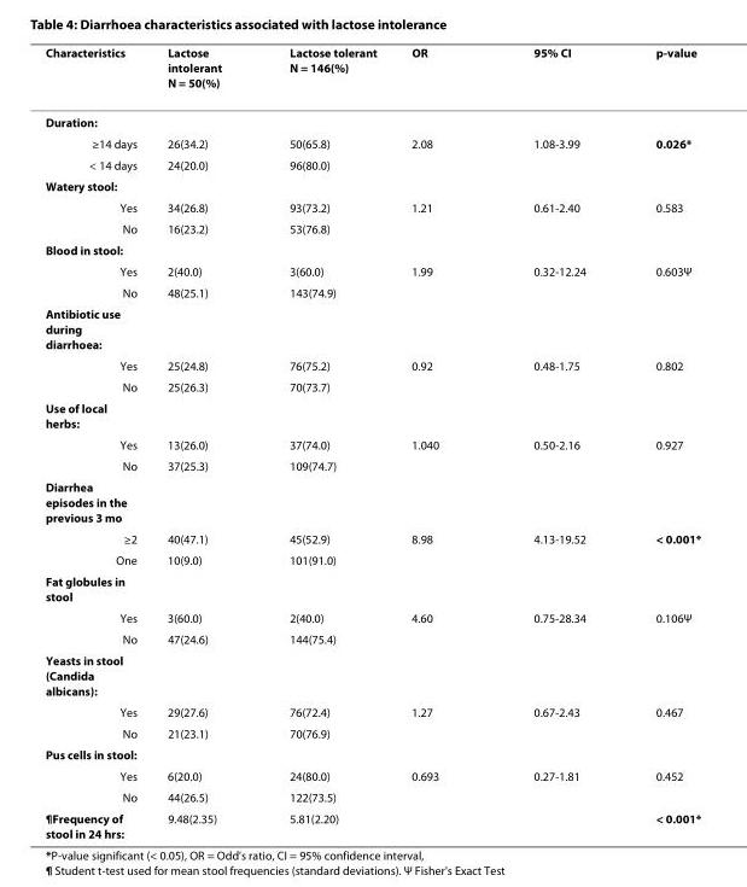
<table><thead><tr><td>Characteristics</td><td>Lactose intolerant N = 50(%)</td><td>Lactose tolerant N = 146(%)</td><td>OR</td><td>95% CI</td><td>p-value</td></tr></thead><tbody><tr><td colspan="6">Duration:</td></tr><tr><td>≥14 days</td><td>26(34.2)</td><td>50(65.8)</td><td>2.08</td><td>1.08-3.99</td><td>0.026*</td></tr><tr><td>&lt; 14 days</td><td>24(20.0)</td><td>96(80.0)</td><td></td><td></td><td></td></tr><tr><td colspan="6">Watery stool:</td></tr><tr><td>Yes</td><td>34(26.8)</td><td>93(73.2)</td><td>1.21</td><td>0.61-2.40</td><td>0.583</td></tr><tr><td>No</td><td>16(23.2)</td><td>53(76.8)</td><td></td><td></td><td></td></tr><tr><td colspan="6">Blood in stool:</td></tr><tr><td>Yes</td><td>2(40.0)</td><td>3(60.0)</td><td>1.99</td><td>0.32-12.24</td><td>0.603Ψ</td></tr><tr><td>No</td><td>48(25.1)</td><td>143(74.9)</td><td></td><td></td><td></td></tr><tr><td colspan="6">Antibiotic use during diarrhoea:</td></tr><tr><td>Yes</td><td>25(24.8)</td><td>76(75.2)</td><td>0.92</td><td>0.48-1.75</td><td>0.802</td></tr><tr><td>No</td><td>25(26.3)</td><td>70(73.7)</td><td></td><td></td><td></td></tr><tr><td colspan="6">Use of local herbs:</td></tr><tr><td>Yes</td><td>13(26.0)</td><td>37(74.0)</td><td>1.040</td><td>0.50-2.16</td><td>0.927</td></tr><tr><td>No</td><td>37(25.3)</td><td>109(74.7)</td><td></td><td></td><td></td></tr><tr><td colspan="6">Diarrhea episodes in the previous 3 mo</td></tr><tr><td>≥2</td><td>40(47.1)</td><td>45(52.9)</td><td>8.98</td><td>4.13-19.52</td><td>&lt; 0.001*</td></tr><tr><td>One</td><td>10(9.0)</td><td>101(91.0)</td><td></td><td></td><td></td></tr><tr><td colspan="6">Fat globules in stool</td></tr><tr><td>Yes</td><td>3(60.0)</td><td>2(40.0)</td><td>4.60</td><td>0.75-28.34</td><td>0.106Ψ</td></tr><tr><td>No</td><td>47(24.6)</td><td>144(75.4)</td><td></td><td></td><td></td></tr><tr><td colspan="6">Yeasts in stool (Candida albicans):</td></tr><tr><td>Yes</td><td>29(27.6)</td><td>76(72.4)</td><td>1.27</td><td>0.67-2.43</td><td>0.467</td></tr><tr><td>No</td><td>21(23.1)</td><td>70(76.9)</td><td></td><td></td><td></td></tr><tr><td colspan="6">Pus cells in stool:</td></tr><tr><td>Yes</td><td>6(20.0)</td><td>24(80.0)</td><td>0.693</td><td>0.27-1.81</td><td>0.452</td></tr><tr><td>No</td><td>44(26.5)</td><td>122(73.5)</td><td></td><td></td><td></td></tr><tr><td>¶Frequency of stool in 24 hrs:</td><td>9.48(2.35)</td><td>5.81(2.20)</td><td></td><td></td><td>&lt; 0.001*</td></tr></tbody></table>